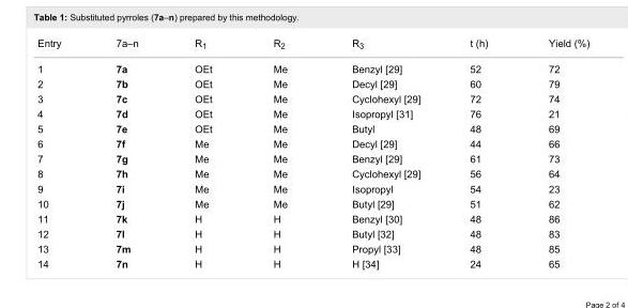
<table><tbody><tr><td>Entry</td><td>7a–n</td><td>R<sub>1</sub></td><td>R<sub>2</sub></td><td>R<sub>3</sub></td><td>t (h)</td><td>Yield (%)</td></tr><tr><td>1</td><td>7a</td><td>OEt</td><td>Me</td><td>Benzyl [29]</td><td>52</td><td>72</td></tr><tr><td>2</td><td>7b</td><td>OEt</td><td>Me</td><td>Decyl [29]</td><td>60</td><td>79</td></tr><tr><td>3</td><td>7c</td><td>OEt</td><td>Me</td><td>Cyclohexyl [29]</td><td>72</td><td>74</td></tr><tr><td>4</td><td>7d</td><td>OEt</td><td>Me</td><td>Isopropyl [31]</td><td>76</td><td>21</td></tr><tr><td>5</td><td>7e</td><td>OEt</td><td>Me</td><td>Butyl</td><td>48</td><td>69</td></tr><tr><td>6</td><td>7f</td><td>Me</td><td>Me</td><td>Decyl [29]</td><td>44</td><td>66</td></tr><tr><td>7</td><td>7g</td><td>Me</td><td>Me</td><td>Benzyl [29]</td><td>61</td><td>73</td></tr><tr><td>8</td><td>7h</td><td>Me</td><td>Me</td><td>Cyclohexyl [29]</td><td>56</td><td>64</td></tr><tr><td>9</td><td>7i</td><td>Me</td><td>Me</td><td>Isopropyl</td><td>54</td><td>23</td></tr><tr><td>10</td><td>7j</td><td>Me</td><td>Me</td><td>Butyl [29]</td><td>51</td><td>62</td></tr><tr><td>11</td><td>7k</td><td>H</td><td>H</td><td>Benzyl [30]</td><td>48</td><td>86</td></tr><tr><td>12</td><td>7l</td><td>H</td><td>H</td><td>Butyl [32]</td><td>48</td><td>83</td></tr><tr><td>13</td><td>7m</td><td>H</td><td>H</td><td>Propyl [33]</td><td>48</td><td>85</td></tr><tr><td>14</td><td>7n</td><td>H</td><td>H</td><td>H [34]</td><td>24</td><td>65</td></tr></tbody></table>